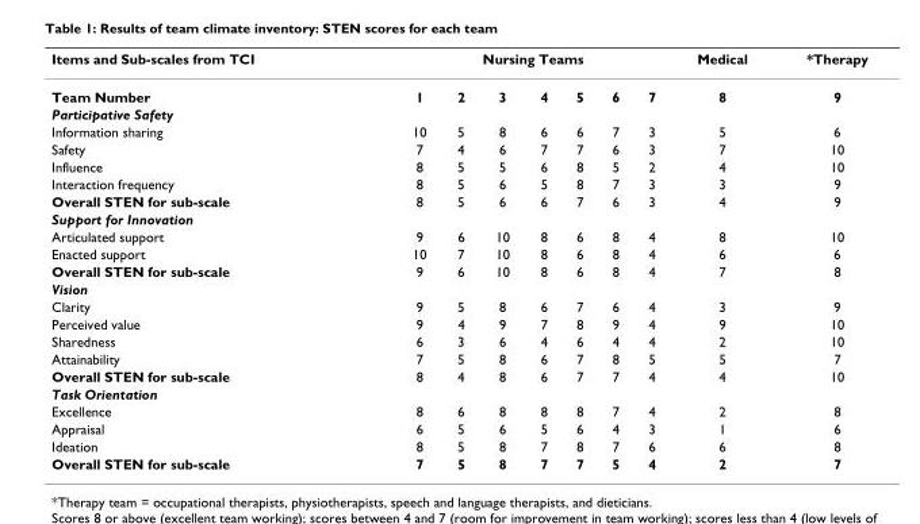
<table><thead><tr><td rowspan="2">Items and Sub-scales from TCI Team Number</td><td colspan="7">Nursing Teams</td><td rowspan="2">Medical 8</td><td rowspan="2">*Therapy 9</td></tr><tr><td>1</td><td>2</td><td>3</td><td>4</td><td>5</td><td>6</td><td>7</td></tr></thead><tbody><tr><td colspan="10">Participative Safety</td></tr><tr><td>Information sharing</td><td>10</td><td>5</td><td>8</td><td>6</td><td>6</td><td>7</td><td>3</td><td>5</td><td>6</td></tr><tr><td>Safety</td><td>7</td><td>4</td><td>6</td><td>7</td><td>7</td><td>6</td><td>3</td><td>7</td><td>10</td></tr><tr><td>Influence</td><td>8</td><td>5</td><td>5</td><td>6</td><td>8</td><td>5</td><td>2</td><td>4</td><td>10</td></tr><tr><td>Interaction frequency</td><td>8</td><td>5</td><td>6</td><td>5</td><td>8</td><td>7</td><td>3</td><td>3</td><td>9</td></tr><tr><td>Overall STEN for sub-scale</td><td>8</td><td>5</td><td>6</td><td>6</td><td>7</td><td>6</td><td>3</td><td>4</td><td>9</td></tr><tr><td colspan="10">Support for Innovation</td></tr><tr><td>Articulated support</td><td>9</td><td>6</td><td>10</td><td>8</td><td>6</td><td>8</td><td>4</td><td>8</td><td>10</td></tr><tr><td>Enacted support</td><td>10</td><td>7</td><td>10</td><td>8</td><td>6</td><td>8</td><td>4</td><td>6</td><td>6</td></tr><tr><td>Overall STEN for sub-scale</td><td>9</td><td>6</td><td>10</td><td>8</td><td>6</td><td>8</td><td>4</td><td>7</td><td>8</td></tr><tr><td colspan="10">Vision</td></tr><tr><td>Clarity</td><td>9</td><td>5</td><td>8</td><td>6</td><td>7</td><td>6</td><td>4</td><td>3</td><td>9</td></tr><tr><td>Perceived value</td><td>9</td><td>4</td><td>9</td><td>7</td><td>8</td><td>9</td><td>4</td><td>9</td><td>10</td></tr><tr><td>Sharedness</td><td>6</td><td>3</td><td>6</td><td>4</td><td>6</td><td>4</td><td>4</td><td>2</td><td>10</td></tr><tr><td>Attainability</td><td>7</td><td>5</td><td>8</td><td>6</td><td>7</td><td>8</td><td>5</td><td>5</td><td>7</td></tr><tr><td>Overall STEN for sub-scale</td><td>8</td><td>4</td><td>8</td><td>6</td><td>7</td><td>7</td><td>4</td><td>4</td><td>10</td></tr><tr><td colspan="10">Task Orientation</td></tr><tr><td>Excellence</td><td>8</td><td>6</td><td>8</td><td>8</td><td>8</td><td>7</td><td>4</td><td>2</td><td>8</td></tr><tr><td>Appraisal</td><td>6</td><td>5</td><td>6</td><td>5</td><td>6</td><td>4</td><td>3</td><td>1</td><td>6</td></tr><tr><td>Ideation</td><td>8</td><td>5</td><td>8</td><td>7</td><td>8</td><td>7</td><td>6</td><td>6</td><td>8</td></tr><tr><td>Overall STEN for sub-scale</td><td>7</td><td>5</td><td>8</td><td>7</td><td>7</td><td>5</td><td>4</td><td>2</td><td>7</td></tr></tbody></table>